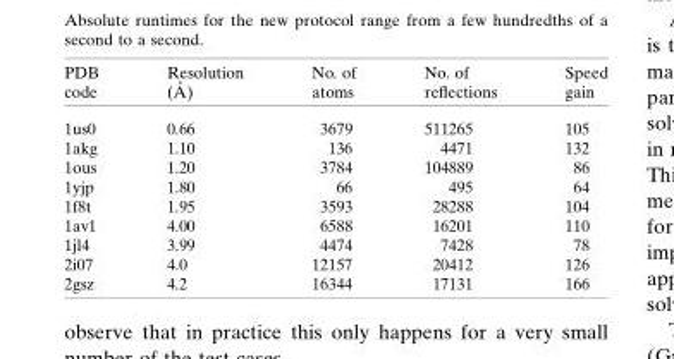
<table><thead><tr><td>PDB code</td><td>Resolution (A˚ )</td><td>No. of atoms</td><td>No. of reflections</td><td>Speed gain</td></tr></thead><tbody><tr><td>1us0</td><td>0.66</td><td>3679</td><td>511265</td><td>105</td></tr><tr><td>1akg</td><td>1.10</td><td>136</td><td>4471</td><td>132</td></tr><tr><td>1ous</td><td>1.20</td><td>3784</td><td>104889</td><td>86</td></tr><tr><td>1yjp</td><td>1.80</td><td>66</td><td>495</td><td>64</td></tr><tr><td>1f8t</td><td>1.95</td><td>3593</td><td>28288</td><td>104</td></tr><tr><td>1av1</td><td>4.00</td><td>6588</td><td>16201</td><td>110</td></tr><tr><td>1jl4</td><td>3.99</td><td>4474</td><td>7428</td><td>78</td></tr><tr><td>2i07</td><td>4.0</td><td>12157</td><td>20412</td><td>126</td></tr><tr><td>2gsz</td><td>4.2</td><td>16344</td><td>17131</td><td>166</td></tr></tbody></table>